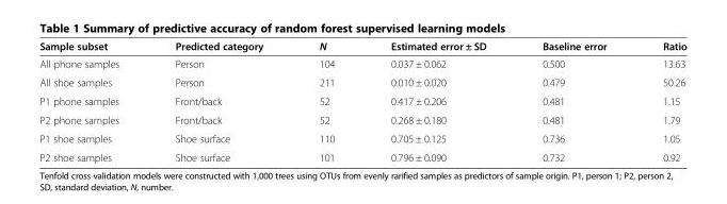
<table><thead><tr><td>Sample subset</td><td>Predicted category</td><td>N</td><td>Estimated error ± SD</td><td>Baseline error</td><td>Ratio</td></tr></thead><tbody><tr><td>All phone samples</td><td>Person</td><td>104</td><td>0.037 ± 0.062</td><td>0.500</td><td>13.63</td></tr><tr><td>All shoe samples</td><td>Person</td><td>211</td><td>0.010 ± 0.020</td><td>0.479</td><td>50.26</td></tr><tr><td>P1 phone samples</td><td>Front/back</td><td>52</td><td>0.417 ± 0.206</td><td>0.481</td><td>1.15</td></tr><tr><td>P2 phone samples</td><td>Front/back</td><td>52</td><td>0.268 ± 0.180</td><td>0.481</td><td>1.79</td></tr><tr><td>P1 shoe samples</td><td>Shoe surface</td><td>110</td><td>0.705 ± 0.125</td><td>0.736</td><td>1.05</td></tr><tr><td>P2 shoe samples</td><td>Shoe surface</td><td>101</td><td>0.796 ± 0.090</td><td>0.732</td><td>0.92</td></tr></tbody></table>